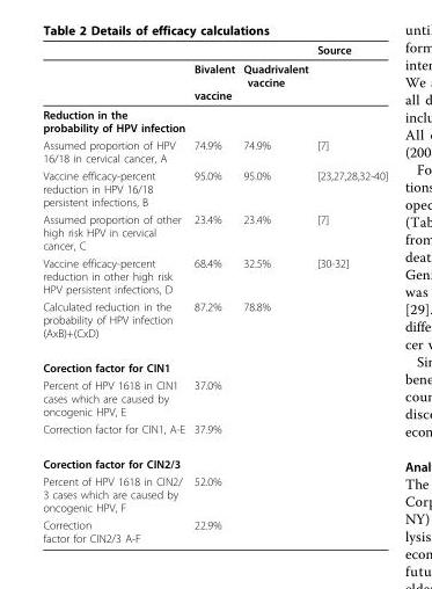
<table><thead><tr><td></td><td></td><td></td><td>Source</td></tr></thead><tbody><tr><td></td><td>Bivalent vaccine</td><td>Quadrivalent vaccine</td><td></td></tr><tr><td colspan="4">Reduction in the probability of HPV infection</td></tr><tr><td>Assumed proportion of HPV 16/18 in cervical cancer, A</td><td>74.9%</td><td>74.9%</td><td>[7]</td></tr><tr><td>Vaccine efficacy-percent reduction in HPV 16/18 persistent infections, B</td><td>95.0%</td><td>95.0%</td><td>[23,27,28,32-40]</td></tr><tr><td>Assumed proportion of other high risk HPV in cervical cancer, C</td><td>23.4%</td><td>23.4%</td><td>[7]</td></tr><tr><td>Vaccine efficacy-percent reduction in other high risk HPV persistent infections, D</td><td>68.4%</td><td>32.5%</td><td>[30-32]</td></tr><tr><td>Calculated reduction in the probability of HPV infection (AxB)+(CxD)</td><td>87.2%</td><td>78.8%</td><td></td></tr><tr><td colspan="4">Corection factor for CIN1</td></tr><tr><td>Percent of HPV 1618 in CIN1 cases which are caused by oncogenic HPV, E</td><td>37.0%</td><td></td><td></td></tr><tr><td>Correction factor for CIN1, A-E</td><td>37.9%</td><td></td><td></td></tr><tr><td colspan="4">Corection factor for CIN2/3</td></tr><tr><td>Percent of HPV 1618 in CIN2/ 3 cases which are caused by oncogenic HPV, F</td><td>52.0%</td><td></td><td></td></tr><tr><td>Correction factor for CIN2/3 A-F</td><td>22.9%</td><td></td><td></td></tr></tbody></table>